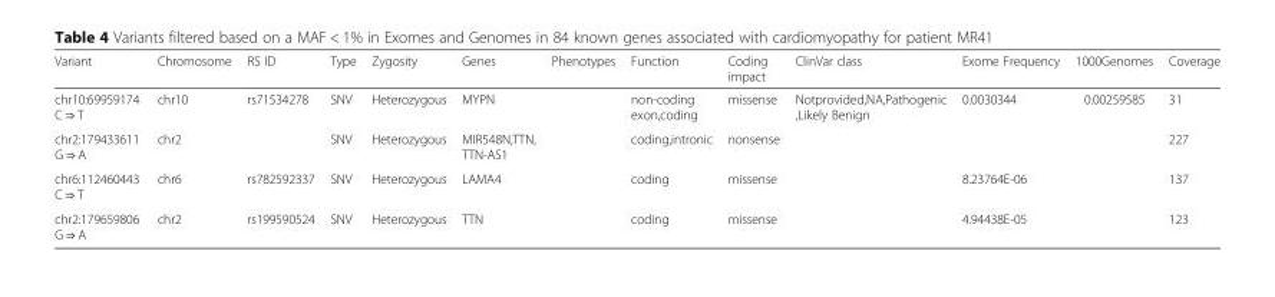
<table><thead><tr><td>Variant</td><td>Chromosome</td><td>RS ID</td><td>Type</td><td>Zygosity</td><td>Genes</td><td>Phenotypes</td><td>Function</td><td>Coding impact</td><td>ClinVar class</td><td>Exome Frequency</td><td>1000Genomes</td><td>Coverage</td></tr></thead><tbody><tr><td>chr10:69959174 C ⇒ T</td><td>chr10</td><td>rs71534278</td><td>SNV</td><td>Heterozygous</td><td>MYPN</td><td></td><td>non-coding exon,coding</td><td>missense</td><td>Notprovided,NA,Pathogenic ,Likely Benign</td><td>0.0030344</td><td>0.00259585</td><td>31</td></tr><tr><td>chr2:179433611 G ⇒ A</td><td>chr2</td><td></td><td>SNV</td><td>Heterozygous</td><td>MIR548N,TTN, TTN-AS1</td><td></td><td>coding,intronic</td><td>nonsense</td><td></td><td></td><td></td><td>227</td></tr><tr><td>chr6:112460443 C ⇒ T</td><td>chr6</td><td>rs782592337</td><td>SNV</td><td>Heterozygous</td><td>LAMA4</td><td></td><td>coding</td><td>missense</td><td></td><td>8.23764E-06</td><td></td><td>137</td></tr><tr><td>chr2:179659806 G ⇒ A</td><td>chr2</td><td>rs199590524</td><td>SNV</td><td>Heterozygous</td><td>TTN</td><td></td><td>coding</td><td>missense</td><td></td><td>4.94438E-05</td><td></td><td>123</td></tr></tbody></table>